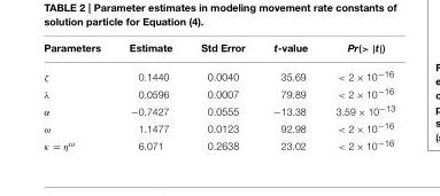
<table><thead><tr><td>Parameters</td><td>Estimate</td><td>Std Error</td><td>t-value</td><td>Pr(&gt; |t|)</td></tr></thead><tbody><tr><td>ζ</td><td>0.1440</td><td>0.0040</td><td>35.69</td><td>&lt; 2 × 10<sup>−16</sup></td></tr><tr><td>λ</td><td>0.0596</td><td>0.0007</td><td>79.89</td><td>&lt; 2 × 10<sup>−16</sup></td></tr><tr><td>α</td><td>−0.7427</td><td>0.0555</td><td>−13.38</td><td>3.59 × 10<sup>−13</sup></td></tr><tr><td>ω</td><td>1.1477</td><td>0.0123</td><td>92.98</td><td>&lt; 2 × 10<sup>−16</sup></td></tr><tr><td>κ = η<sup>ω</sup></td><td>6.071</td><td>0.2638</td><td>23.02</td><td>&lt; 2 × 10<sup>−16</sup></td></tr></tbody></table>